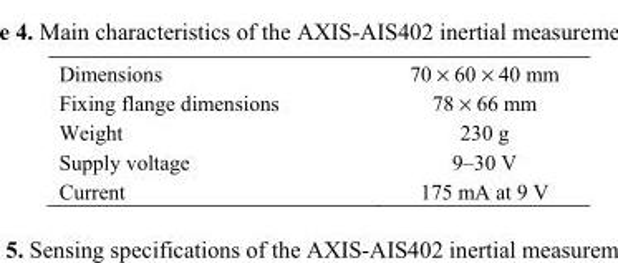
<table><tbody><tr><td>Dimensions</td><td>70 × 60 × 40 mm</td></tr><tr><td>Fixing flange dimensions</td><td>78 × 66 mm</td></tr><tr><td>Weight</td><td>230 g</td></tr><tr><td>Supply voltage</td><td>9–30 V</td></tr><tr><td>Current</td><td>175 mA at 9 V</td></tr></tbody></table>